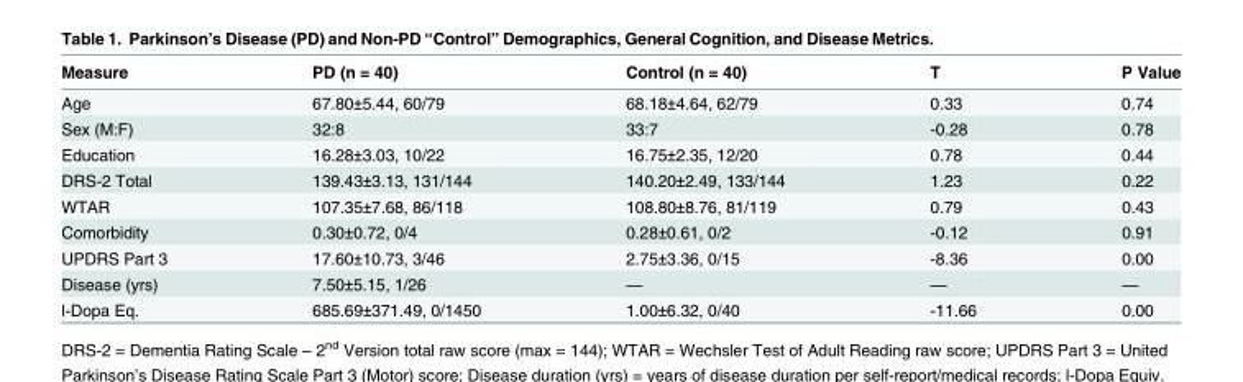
<table><thead><tr><td>Measure</td><td>PD (n = 40)</td><td>Control (n = 40)</td><td>T</td><td>P Value</td></tr></thead><tbody><tr><td>Age</td><td>67.80±5.44, 60/79</td><td>68.18±4.64, 62/79</td><td>0.33</td><td>0.74</td></tr><tr><td>Sex (M:F)</td><td>32:8</td><td>33:7</td><td>-0.28</td><td>0.78</td></tr><tr><td>Education</td><td>16.28±3.03, 10/22</td><td>16.75±2.35, 12/20</td><td>0.78</td><td>0.44</td></tr><tr><td>DRS-2 Total</td><td>139.43±3.13, 131/144</td><td>140.20±2.49, 133/144</td><td>1.23</td><td>0.22</td></tr><tr><td>WTAR</td><td>107.35±7.68, 86/118</td><td>108.80±8.76, 81/119</td><td>0.79</td><td>0.43</td></tr><tr><td>Comorbidity</td><td>0.30±0.72, 0/4</td><td>0.28±0.61, 0/2</td><td>-0.12</td><td>0.91</td></tr><tr><td>UPDRS Part 3</td><td>17.60±10.73, 3/46</td><td>2.75±3.36, 0/15</td><td>-8.36</td><td>0.00</td></tr><tr><td>Disease (yrs)</td><td>7.50±5.15, 1/26</td><td>—</td><td>—</td><td>—</td></tr><tr><td>l-Dopa Eq.</td><td>685.69±371.49, 0/1450</td><td>1.00±6.32, 0/40</td><td>-11.66</td><td>0.00</td></tr></tbody></table>